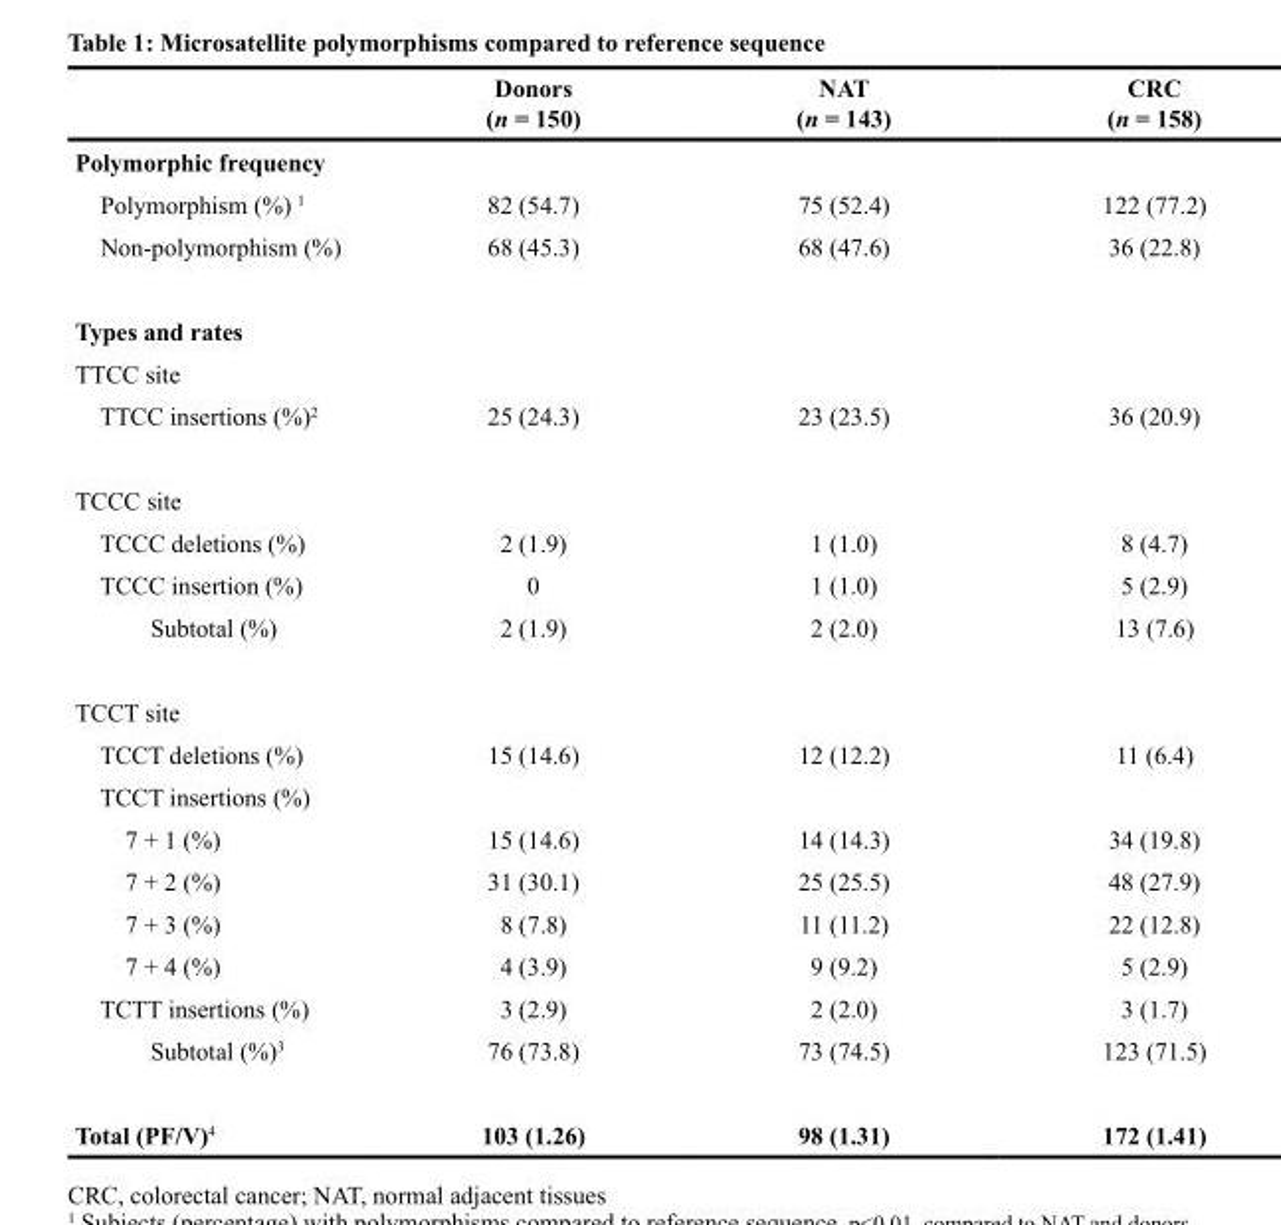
<table><thead><tr><td rowspan="2"></td><td rowspan="2">Donors (n = 150)</td><td rowspan="2">NAT (n = 143)</td><td rowspan="2">CRC (n = 158)</td></tr><tr></tr></thead><tbody><tr><td colspan="4">Polymorphic frequency</td></tr><tr><td>Polymorphism (%) <sup>1</sup></td><td>82 (54.7)</td><td>75 (52.4)</td><td>122 (77.2)</td></tr><tr><td>Non-polymorphism (%)</td><td>68 (45.3)</td><td>68 (47.6)</td><td>36 (22.8)</td></tr><tr><td colspan="4">Types and rates</td></tr><tr><td colspan="4">TTCC site</td></tr><tr><td>TTCC insertions (%)<sup>2</sup></td><td>25 (24.3)</td><td>23 (23.5)</td><td>36 (20.9)</td></tr><tr><td colspan="4">TCCC site</td></tr><tr><td>TCCC deletions (%)</td><td>2 (1.9)</td><td>1 (1.0)</td><td>8 (4.7)</td></tr><tr><td>TCCC insertion (%)</td><td>0</td><td>1 (1.0)</td><td>5 (2.9)</td></tr><tr><td>Subtotal (%)</td><td>2 (1.9)</td><td>2 (2.0)</td><td>13 (7.6)</td></tr><tr><td colspan="4">TCCT site</td></tr><tr><td>TCCT deletions (%)</td><td>15 (14.6)</td><td>12 (12.2)</td><td>11 (6.4)</td></tr><tr><td colspan="4">TCCT insertions (%)</td></tr><tr><td>7 + 1 (%)</td><td>15 (14.6)</td><td>14 (14.3)</td><td>34 (19.8)</td></tr><tr><td>7 + 2 (%)</td><td>31 (30.1)</td><td>25 (25.5)</td><td>48 (27.9)</td></tr><tr><td>7 + 3 (%)</td><td>8 (7.8)</td><td>11 (11.2)</td><td>22 (12.8)</td></tr><tr><td>7 + 4 (%)</td><td>4 (3.9)</td><td>9 (9.2)</td><td>5 (2.9)</td></tr><tr><td>TCTT insertions (%)</td><td>3 (2.9)</td><td>2 (2.0)</td><td>3 (1.7)</td></tr><tr><td>Subtotal (%)<sup>3</sup></td><td>76 (73.8)</td><td>73 (74.5)</td><td>123 (71.5)</td></tr><tr><td>Total (PF/V)<sup>4</sup></td><td>103 (1.26)</td><td>98 (1.31)</td><td>172 (1.41)</td></tr></tbody></table>